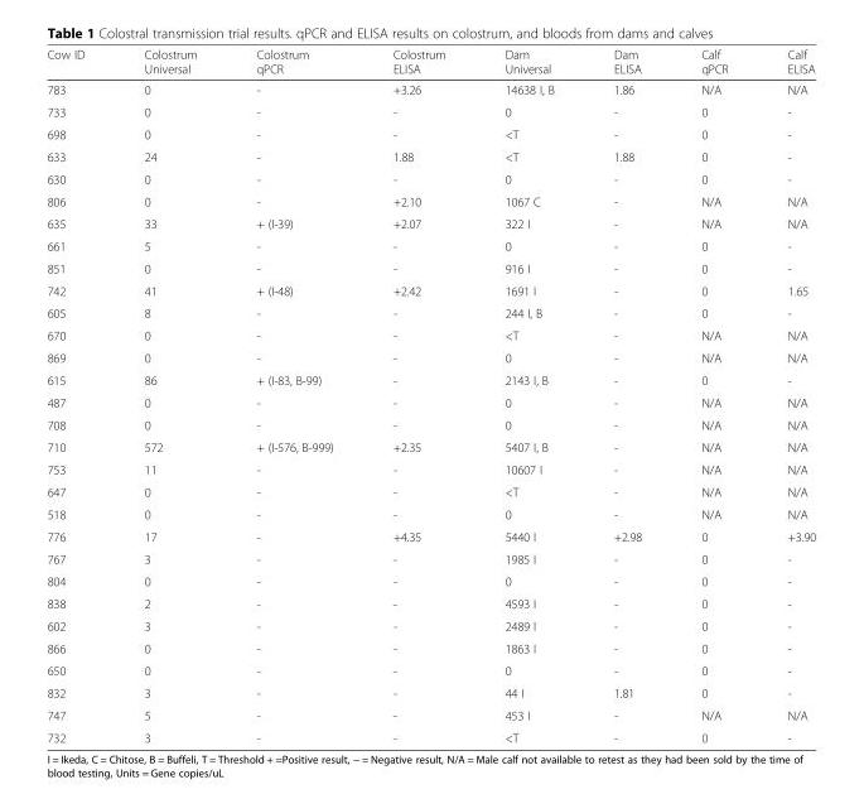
<table><thead><tr><td>Cow ID</td><td>Colostrum Universal</td><td>Colostrum qPCR</td><td>Colostrum ELISA</td><td>Dam Universal</td><td>Dam ELISA</td><td>Calf qPCR</td><td>Calf ELISA</td></tr></thead><tbody><tr><td>783</td><td>0</td><td>-</td><td>+3.26</td><td>14638 I, B</td><td>1.86</td><td>N/A</td><td>N/A</td></tr><tr><td>733</td><td>0</td><td>-</td><td>-</td><td>0</td><td>-</td><td>0</td><td>-</td></tr><tr><td>698</td><td>0</td><td>-</td><td>-</td><td>&lt;T</td><td>-</td><td>0</td><td>-</td></tr><tr><td>633</td><td>24</td><td>-</td><td>1.88</td><td>&lt;T</td><td>1.88</td><td>0</td><td>-</td></tr><tr><td>630</td><td>0</td><td>-</td><td>-</td><td>0</td><td>-</td><td>0</td><td>-</td></tr><tr><td>806</td><td>0</td><td>-</td><td>+2.10</td><td>1067 C</td><td>-</td><td>N/A</td><td>N/A</td></tr><tr><td>635</td><td>33</td><td>+ (I-39)</td><td>+2.07</td><td>322 I</td><td>-</td><td>N/A</td><td>N/A</td></tr><tr><td>661</td><td>5</td><td>-</td><td>-</td><td>0</td><td>-</td><td>0</td><td>-</td></tr><tr><td>851</td><td>0</td><td>-</td><td>-</td><td>916 I</td><td>-</td><td>0</td><td>-</td></tr><tr><td>742</td><td>41</td><td>+ (I-48)</td><td>+2.42</td><td>1691 I</td><td>-</td><td>0</td><td>1.65</td></tr><tr><td>605</td><td>8</td><td>-</td><td>-</td><td>244 I, B</td><td>-</td><td>0</td><td>-</td></tr><tr><td>670</td><td>0</td><td>-</td><td>-</td><td>&lt;T</td><td>-</td><td>N/A</td><td>N/A</td></tr><tr><td>869</td><td>0</td><td>-</td><td>-</td><td>0</td><td>-</td><td>N/A</td><td>N/A</td></tr><tr><td>615</td><td>86</td><td>+ (I-83, B-99)</td><td>-</td><td>2143 I, B</td><td>-</td><td>0</td><td>-</td></tr><tr><td>487</td><td>0</td><td>-</td><td>-</td><td>0</td><td>-</td><td>N/A</td><td>N/A</td></tr><tr><td>708</td><td>0</td><td>-</td><td>-</td><td>0</td><td>-</td><td>N/A</td><td>N/A</td></tr><tr><td>710</td><td>572</td><td>+ (I-576, B-999)</td><td>+2.35</td><td>5407 I, B</td><td>-</td><td>N/A</td><td>N/A</td></tr><tr><td>753</td><td>11</td><td>-</td><td>-</td><td>10607 I</td><td>-</td><td>N/A</td><td>N/A</td></tr><tr><td>647</td><td>0</td><td>-</td><td>-</td><td>&lt;T</td><td>-</td><td>N/A</td><td>N/A</td></tr><tr><td>518</td><td>0</td><td>-</td><td>-</td><td>0</td><td>-</td><td>N/A</td><td>N/A</td></tr><tr><td>776</td><td>17</td><td>-</td><td>+4.35</td><td>5440 I</td><td>+2.98</td><td>0</td><td>+3.90</td></tr><tr><td>767</td><td>3</td><td>-</td><td>-</td><td>1985 I</td><td>-</td><td>0</td><td>-</td></tr><tr><td>804</td><td>0</td><td>-</td><td>-</td><td>0</td><td>-</td><td>0</td><td>-</td></tr><tr><td>838</td><td>2</td><td>-</td><td>-</td><td>4593 I</td><td>-</td><td>0</td><td>-</td></tr><tr><td>602</td><td>3</td><td>-</td><td>-</td><td>2489 I</td><td>-</td><td>0</td><td>-</td></tr><tr><td>866</td><td>0</td><td>-</td><td>-</td><td>1863 I</td><td>-</td><td>0</td><td>-</td></tr><tr><td>650</td><td>0</td><td>-</td><td>-</td><td>0</td><td>-</td><td>0</td><td>-</td></tr><tr><td>832</td><td>3</td><td>-</td><td>-</td><td>44 I</td><td>1.81</td><td>0</td><td>-</td></tr><tr><td>747</td><td>5</td><td>-</td><td>-</td><td>453 I</td><td>-</td><td>N/A</td><td>N/A</td></tr><tr><td>732</td><td>3</td><td>-</td><td>-</td><td>&lt;T</td><td>-</td><td>0</td><td>-</td></tr></tbody></table>